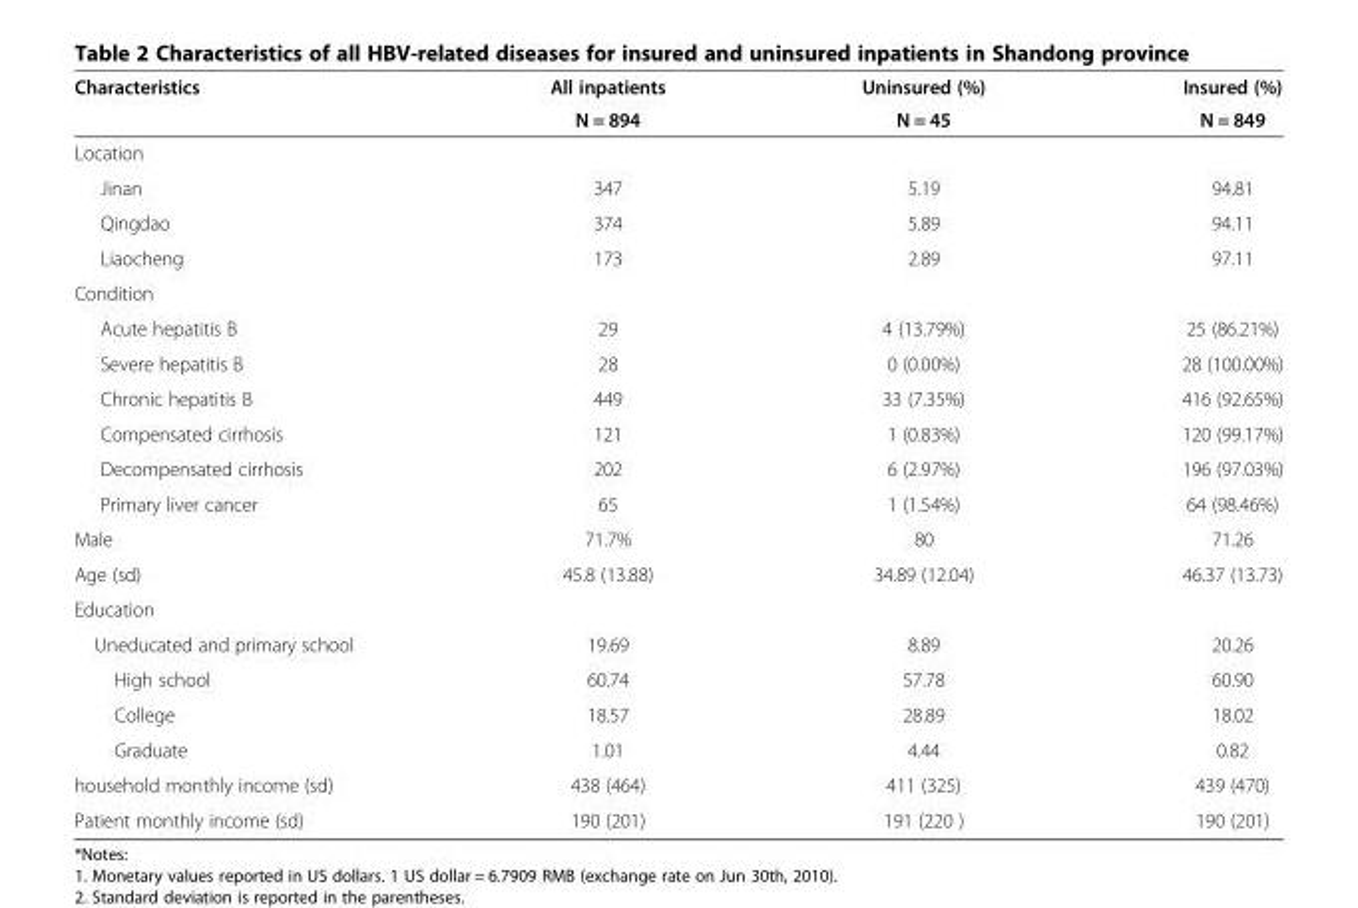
<table><thead><tr><td rowspan="2">Characteristics</td><td rowspan="2">All inpatients N = 894</td><td rowspan="2">Uninsured (%) N = 45</td><td rowspan="2">Insured (%) N = 849</td></tr><tr></tr></thead><tbody><tr><td colspan="4">Location</td></tr><tr><td>Jinan</td><td>347</td><td>5.19</td><td>94.81</td></tr><tr><td>Qingdao</td><td>374</td><td>5.89</td><td>94.11</td></tr><tr><td>Liaocheng</td><td>173</td><td>2.89</td><td>97.11</td></tr><tr><td colspan="4">Condition</td></tr><tr><td>Acute hepatitis B</td><td>29</td><td>4 (13.79%)</td><td>25 (86.21%)</td></tr><tr><td>Severe hepatitis B</td><td>28</td><td>0 (0.00%)</td><td>28 (100.00%)</td></tr><tr><td>Chronic hepatitis B</td><td>449</td><td>33 (7.35%)</td><td>416 (92.65%)</td></tr><tr><td>Compensated cirrhosis</td><td>121</td><td>1 (0.83%)</td><td>120 (99.17%)</td></tr><tr><td>Decompensated cirrhosis</td><td>202</td><td>6 (2.97%)</td><td>196 (97.03%)</td></tr><tr><td>Primary liver cancer</td><td>65</td><td>1 (1.54%)</td><td>64 (98.46%)</td></tr><tr><td>Male</td><td>71.7%</td><td>80</td><td>71.26</td></tr><tr><td>Age (sd)</td><td>45.8 (13.88)</td><td>34.89 (12.04)</td><td>46.37 (13.73)</td></tr><tr><td colspan="4">Education</td></tr><tr><td>Uneducated and primary school</td><td>19.69</td><td>8.89</td><td>20.26</td></tr><tr><td>High school</td><td>60.74</td><td>57.78</td><td>60.90</td></tr><tr><td>College</td><td>18.57</td><td>28.89</td><td>18.02</td></tr><tr><td>Graduate</td><td>1.01</td><td>4.44</td><td>0.82</td></tr><tr><td>household monthly income (sd)</td><td>438 (464)</td><td>411 (325)</td><td>439 (470)</td></tr><tr><td>Patient monthly income (sd)</td><td>190 (201)</td><td>191 (220 )</td><td>190 (201)</td></tr></tbody></table>